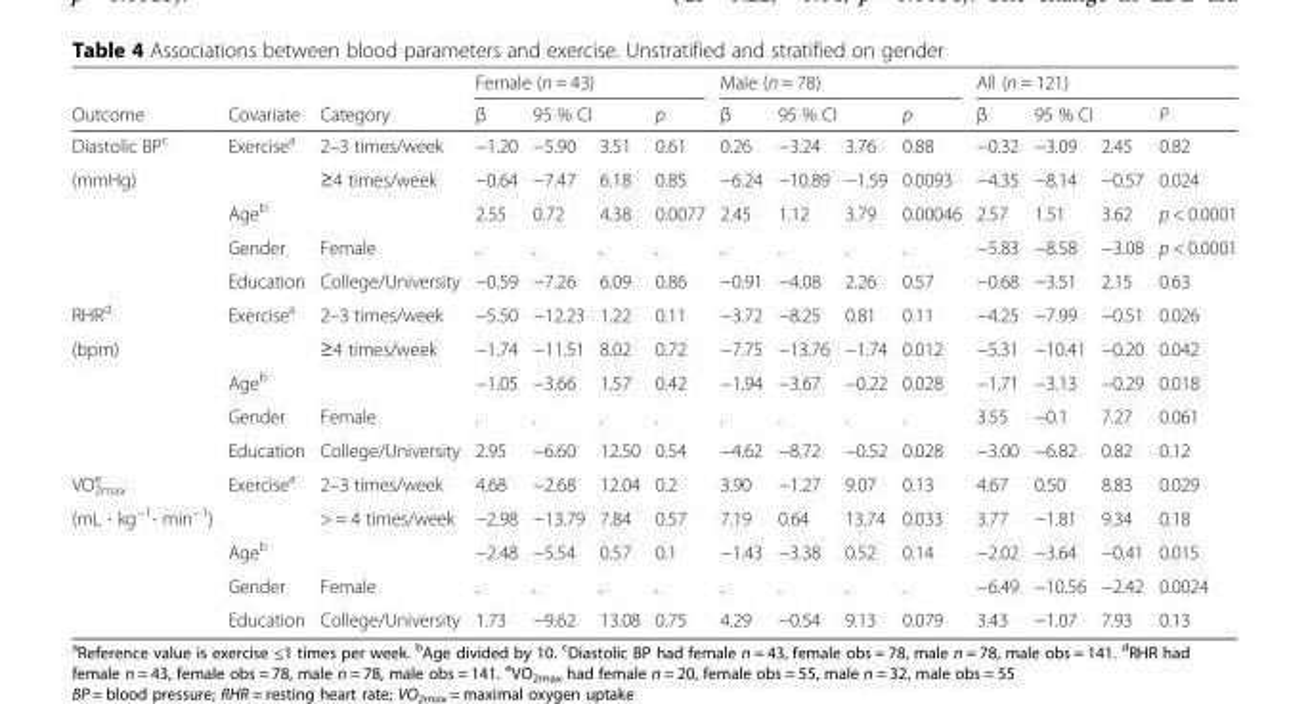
<table><thead><tr><td rowspan="3">Outcome Diastolic BP<sup>c</sup></td><td rowspan="3">Covariate Exercise<sup>a</sup></td><td rowspan="3">Category 2–3 times/week</td><td colspan="4">Female (n = 43)</td><td colspan="4">Male (n = 78)</td><td colspan="4">All (n = 121)</td></tr><tr><td rowspan="2">β −1.20</td><td colspan="2">95 % CI</td><td rowspan="2">p 0.61</td><td rowspan="2">β 0.26</td><td colspan="2">95 % CI</td><td rowspan="2">p 0.88</td><td rowspan="2">β −0.32</td><td colspan="2">95 % CI</td><td rowspan="2">P 0.82</td></tr><tr><td>−5.90</td><td>3.51</td><td>−3.24</td><td>3.76</td><td>−3.09</td><td>2.45</td></tr></thead><tbody><tr><td rowspan="4">(mmHg)</td><td></td><td>≥4 times/week</td><td>−0.64</td><td>−7.47</td><td>6.18</td><td>0.85</td><td>−6.24</td><td>−10.89</td><td>−1.59</td><td>0.0093</td><td>−4.35</td><td>−8.14</td><td>−0.57</td><td>0.024</td></tr><tr><td>Age<sup>b</sup></td><td></td><td>2.55</td><td>0.72</td><td>4.38</td><td>0.0077</td><td>2.45</td><td>1.12</td><td>3.79</td><td>0.00046</td><td>2.57</td><td>1.51</td><td>3.62</td><td>p &lt; 0.0001</td></tr><tr><td>Gender</td><td>Female</td><td>.</td><td>.</td><td>.</td><td>.</td><td>.</td><td>.</td><td>.</td><td>.</td><td>−5.83</td><td>−8.58</td><td>−3.08</td><td>p &lt; 0.0001</td></tr><tr><td>Education</td><td>College/University</td><td>−0.59</td><td>−7.26</td><td>6.09</td><td>0.86</td><td>−0.91</td><td>−4.08</td><td>2.26</td><td>0.57</td><td>−0.68</td><td>−3.51</td><td>2.15</td><td>0.63</td></tr><tr><td>RHR<sup>d</sup></td><td>Exercise<sup>a</sup></td><td>2–3 times/week</td><td>−5.50</td><td>−12.23</td><td>1.22</td><td>0.11</td><td>−3.72</td><td>−8.25</td><td>0.81</td><td>0.11</td><td>−4.25</td><td>−7.99</td><td>−0.51</td><td>0.026</td></tr><tr><td rowspan="4">(bpm)</td><td></td><td>≥4 times/week</td><td>−1.74</td><td>−11.51</td><td>8.02</td><td>0.72</td><td>−7.75</td><td>−13.76</td><td>−1.74</td><td>0.012</td><td>−5.31</td><td>−10.41</td><td>−0.20</td><td>0.042</td></tr><tr><td>Age<sup>b</sup></td><td></td><td>−1.05</td><td>−3.66</td><td>1.57</td><td>0.42</td><td>−1.94</td><td>−3.67</td><td>−0.22</td><td>0.028</td><td>−1.71</td><td>−3.13</td><td>−0.29</td><td>0.018</td></tr><tr><td>Gender</td><td>Female</td><td>.</td><td>.</td><td>.</td><td>.</td><td>.</td><td>.</td><td>.</td><td>.</td><td>3.55</td><td>−0.1</td><td>7.27</td><td>0.061</td></tr><tr><td>Education</td><td>College/University</td><td>2.95</td><td>−6.60</td><td>12.50</td><td>0.54</td><td>−4.62</td><td>−8.72</td><td>−0.52</td><td>0.028</td><td>−3.00</td><td>−6.82</td><td>0.82</td><td>0.12</td></tr><tr><td>VO<sub>2max</sub> <sup>e</sup></td><td>Exercise<sup>a</sup></td><td>2–3 times/week</td><td>4.68</td><td>−2.68</td><td>12.04</td><td>0.2</td><td>3.90</td><td>−1.27</td><td>9.07</td><td>0.13</td><td>4.67</td><td>0.50</td><td>8.83</td><td>0.029</td></tr><tr><td rowspan="4">(mL ∙ kg<sup>−1</sup>∙ min<sup>−1</sup>)</td><td></td><td>&gt; = 4 times/week</td><td>−2.98</td><td>−13.79</td><td>7.84</td><td>0.57</td><td>7.19</td><td>0.64</td><td>13.74</td><td>0.033</td><td>3.77</td><td>−1.81</td><td>9.34</td><td>0.18</td></tr><tr><td>Age<sup>b</sup></td><td></td><td>−2.48</td><td>−5.54</td><td>0.57</td><td>0.1</td><td>−1.43</td><td>−3.38</td><td>0.52</td><td>0.14</td><td>−2.02</td><td>−3.64</td><td>−0.41</td><td>0.015</td></tr><tr><td>Gender</td><td>Female</td><td>.</td><td>.</td><td>.</td><td>.</td><td>.</td><td>.</td><td>.</td><td>.</td><td>−6.49</td><td>−10.56</td><td>−2.42</td><td>0.0024</td></tr><tr><td>Education</td><td>College/University</td><td>1.73</td><td>−9.62</td><td>13.08</td><td>0.75</td><td>4.29</td><td>−0.54</td><td>9.13</td><td>0.079</td><td>3.43</td><td>−1.07</td><td>7.93</td><td>0.13</td></tr></tbody></table>